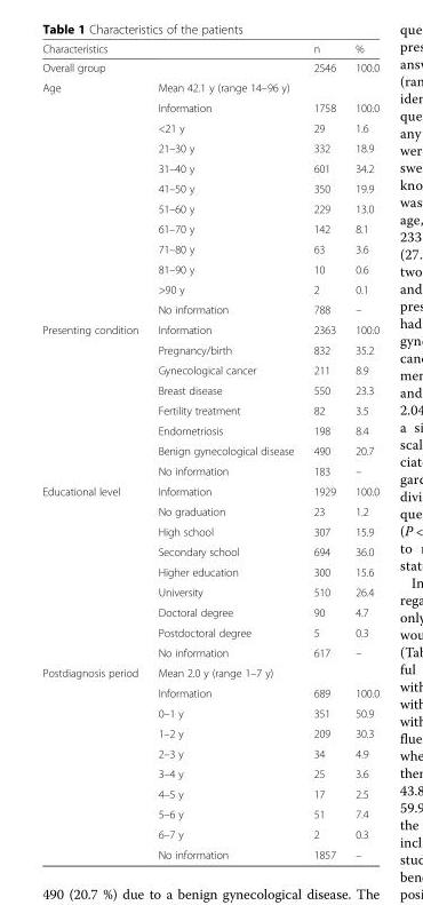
<table><thead><tr><td>Characteristics</td><td></td><td>n</td><td>%</td></tr></thead><tbody><tr><td>Overall group</td><td></td><td>2546</td><td>100.0</td></tr><tr><td rowspan="12">Age</td><td>Mean 42.1 y (range 14–96 y)</td><td></td><td></td></tr><tr><td>Information</td><td>1758</td><td>100.0</td></tr><tr><td>&lt;21 y</td><td>29</td><td>1.6</td></tr><tr><td>21–30 y</td><td>332</td><td>18.9</td></tr><tr><td>31–40 y</td><td>601</td><td>34.2</td></tr><tr><td>41–50 y</td><td>350</td><td>19.9</td></tr><tr><td>51–60 y</td><td>229</td><td>13.0</td></tr><tr><td>61–70 y</td><td>142</td><td>8.1</td></tr><tr><td>71–80 y</td><td>63</td><td>3.6</td></tr><tr><td>81–90 y</td><td>10</td><td>0.6</td></tr><tr><td>&gt;90 y</td><td>2</td><td>0.1</td></tr><tr><td>No information</td><td>788</td><td>–</td></tr><tr><td rowspan="8">Presenting condition</td><td>Information</td><td>2363</td><td>100.0</td></tr><tr><td>Pregnancy/birth</td><td>832</td><td>35.2</td></tr><tr><td>Gynecological cancer</td><td>211</td><td>8.9</td></tr><tr><td>Breast disease</td><td>550</td><td>23.3</td></tr><tr><td>Fertility treatment</td><td>82</td><td>3.5</td></tr><tr><td>Endometriosis</td><td>198</td><td>8.4</td></tr><tr><td>Benign gynecological disease</td><td>490</td><td>20.7</td></tr><tr><td>No information</td><td>183</td><td>–</td></tr><tr><td rowspan="9">Educational level</td><td>Information</td><td>1929</td><td>100.0</td></tr><tr><td>No graduation</td><td>23</td><td>1.2</td></tr><tr><td>High school</td><td>307</td><td>15.9</td></tr><tr><td>Secondary school</td><td>694</td><td>36.0</td></tr><tr><td>Higher education</td><td>300</td><td>15.6</td></tr><tr><td>University</td><td>510</td><td>26.4</td></tr><tr><td>Doctoral degree</td><td>90</td><td>4.7</td></tr><tr><td>Postdoctoral degree</td><td>5</td><td>0.3</td></tr><tr><td>No information</td><td>617</td><td>–</td></tr><tr><td rowspan="10">Postdiagnosis period</td><td>Mean 2.0 y (range 1–7 y)</td><td></td><td></td></tr><tr><td>Information</td><td>689</td><td>100.0</td></tr><tr><td>0–1 y</td><td>351</td><td>50.9</td></tr><tr><td>1–2 y</td><td>209</td><td>30.3</td></tr><tr><td>2–3 y</td><td>34</td><td>4.9</td></tr><tr><td>3–4 y</td><td>25</td><td>3.6</td></tr><tr><td>4–5 y</td><td>17</td><td>2.5</td></tr><tr><td>5–6 y</td><td>51</td><td>7.4</td></tr><tr><td>6–7 y</td><td>2</td><td>0.3</td></tr><tr><td>No information</td><td>1857</td><td>–</td></tr></tbody></table>